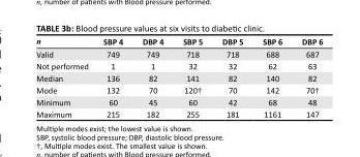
<table><thead><tr><td>n</td><td>SBP 4</td><td>DBP 4</td><td>SBP 5</td><td>DBP 5</td><td>SBP 6</td><td>DBP 6</td></tr></thead><tbody><tr><td>Valid</td><td>749</td><td>749</td><td>718</td><td>718</td><td>688</td><td>687</td></tr><tr><td>Not performed</td><td>1</td><td>1</td><td>32</td><td>32</td><td>62</td><td>63</td></tr><tr><td>Median</td><td>136</td><td>82</td><td>141</td><td>82</td><td>140</td><td>82</td></tr><tr><td>Mode</td><td>132</td><td>70</td><td>120†</td><td>70</td><td>142</td><td>70†</td></tr><tr><td>Minimum</td><td>60</td><td>45</td><td>60</td><td>42</td><td>68</td><td>48</td></tr><tr><td>Maximum</td><td>215</td><td>182</td><td>255</td><td>181</td><td>1161</td><td>147</td></tr></tbody></table>